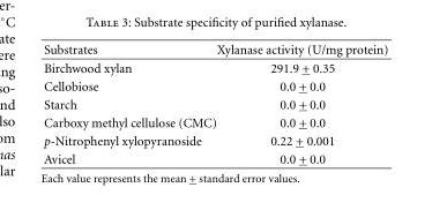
<table><thead><tr><td>Substrates</td><td>Xylanase activity (U/mg protein)</td></tr></thead><tbody><tr><td>Birchwood xylan</td><td>291.9 + 0.35</td></tr><tr><td>Cellobiose</td><td>0.0 + 0.0</td></tr><tr><td>Starch</td><td>0.0 + 0.0</td></tr><tr><td>Carboxy methyl cellulose (CMC)</td><td>0.0 + 0.0</td></tr><tr><td>p-Nitrophenyl xylopyranoside</td><td>0.22 + 0.001</td></tr><tr><td>Avicel</td><td>0.0 + 0.0</td></tr></tbody></table>